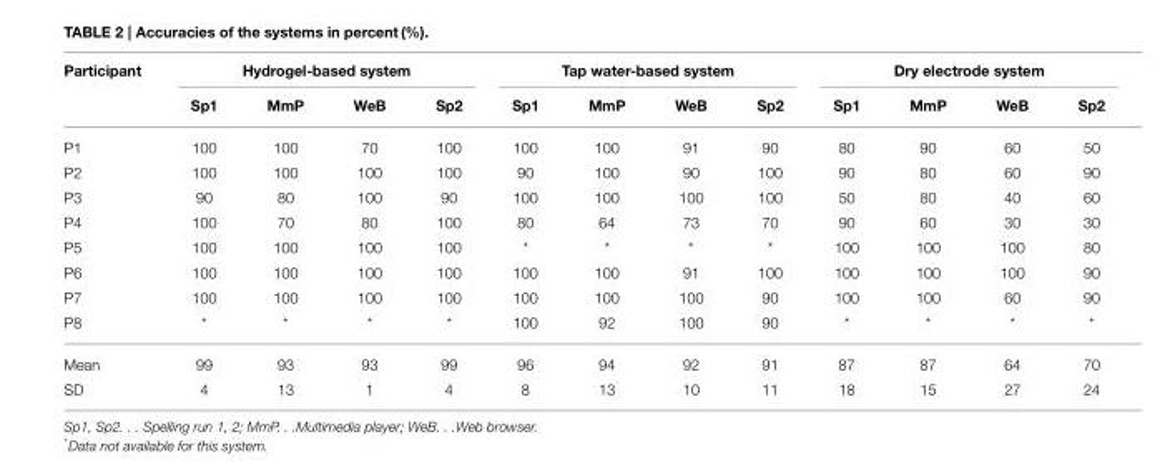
<table><thead><tr><td rowspan="2">Participant</td><td colspan="4">Hydrogel-based system</td><td colspan="4">Tap water-based system</td><td colspan="4">Dry electrode system</td></tr><tr><td>Sp1</td><td>MmP</td><td>WeB</td><td>Sp2</td><td>Sp1</td><td>MmP</td><td>WeB</td><td>Sp2</td><td>Sp1</td><td>MmP</td><td>WeB</td><td>Sp2</td></tr></thead><tbody><tr><td>P1</td><td>100</td><td>100</td><td>70</td><td>100</td><td>100</td><td>100</td><td>91</td><td>90</td><td>80</td><td>90</td><td>60</td><td>50</td></tr><tr><td>P2</td><td>100</td><td>100</td><td>100</td><td>100</td><td>90</td><td>100</td><td>90</td><td>100</td><td>90</td><td>80</td><td>60</td><td>90</td></tr><tr><td>P3</td><td>90</td><td>80</td><td>100</td><td>90</td><td>100</td><td>100</td><td>100</td><td>100</td><td>50</td><td>80</td><td>40</td><td>60</td></tr><tr><td>P4</td><td>100</td><td>70</td><td>80</td><td>100</td><td>80</td><td>64</td><td>73</td><td>70</td><td>90</td><td>60</td><td>30</td><td>30</td></tr><tr><td>P5</td><td>100</td><td>100</td><td>100</td><td>100</td><td>*</td><td>*</td><td>*</td><td>*</td><td>100</td><td>100</td><td>100</td><td>80</td></tr><tr><td>P6</td><td>100</td><td>100</td><td>100</td><td>100</td><td>100</td><td>100</td><td>91</td><td>100</td><td>100</td><td>100</td><td>100</td><td>90</td></tr><tr><td>P7</td><td>100</td><td>100</td><td>100</td><td>100</td><td>100</td><td>100</td><td>100</td><td>90</td><td>100</td><td>100</td><td>60</td><td>90</td></tr><tr><td>P8</td><td>*</td><td>*</td><td>*</td><td>*</td><td>100</td><td>92</td><td>100</td><td>90</td><td>*</td><td>*</td><td>*</td><td>*</td></tr><tr><td>Mean</td><td>99</td><td>93</td><td>93</td><td>99</td><td>96</td><td>94</td><td>92</td><td>91</td><td>87</td><td>87</td><td>64</td><td>70</td></tr><tr><td>SD</td><td>4</td><td>13</td><td>1</td><td>4</td><td>8</td><td>13</td><td>10</td><td>11</td><td>18</td><td>15</td><td>27</td><td>24</td></tr></tbody></table>